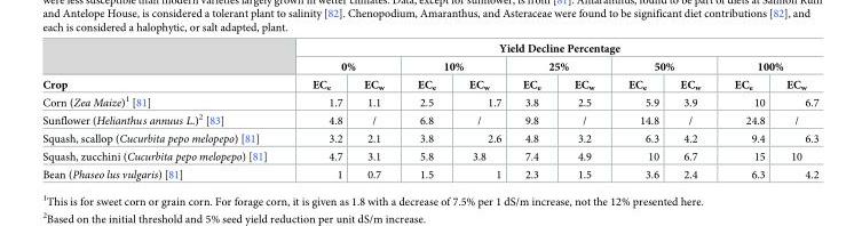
<table><thead><tr><td rowspan="3">Crop</td><td colspan="10">Yield Decline Percentage</td></tr><tr><td colspan="2">0%</td><td colspan="2">10%</td><td colspan="2">25%</td><td colspan="2">50%</td><td colspan="2">100%</td></tr><tr><td>EC<sub>e</sub></td><td>EC<sub>w</sub></td><td>EC<sub>e</sub></td><td>EC<sub>w</sub></td><td>EC<sub>e</sub></td><td>EC<sub>w</sub></td><td>EC<sub>e</sub></td><td>EC<sub>w</sub></td><td>EC<sub>e</sub></td><td>EC<sub>w</sub></td></tr></thead><tbody><tr><td>Corn (Zea Maize)<sup>1</sup> [81]</td><td>1.7</td><td>1.1</td><td>2.5</td><td>1.7</td><td>3.8</td><td>2.5</td><td>5.9</td><td>3.9</td><td>10</td><td>6.7</td></tr><tr><td>Sunflower (Helianthus annuus L.)<sup>2</sup> [83]</td><td>4.8</td><td>/</td><td>6.8</td><td>/</td><td>9.8</td><td>/</td><td>14.8</td><td>/</td><td>24.8</td><td>/</td></tr><tr><td>Squash, scallop (Cucurbita pepo melopepo) [81]</td><td>3.2</td><td>2.1</td><td>3.8</td><td>2.6</td><td>4.8</td><td>3.2</td><td>6.3</td><td>4.2</td><td>9.4</td><td>6.3</td></tr><tr><td>Squash, zucchini (Cucurbita pepo melopepo) [81]</td><td>4.7</td><td>3.1</td><td>5.8</td><td>3.8</td><td>7.4</td><td>4.9</td><td>10</td><td>6.7</td><td>15</td><td>10</td></tr><tr><td>Bean (Phaseo lus vulgaris) [81]</td><td>1</td><td>0.7</td><td>1.5</td><td>1</td><td>2.3</td><td>1.5</td><td>3.6</td><td>2.4</td><td>6.3</td><td>4.2</td></tr></tbody></table>